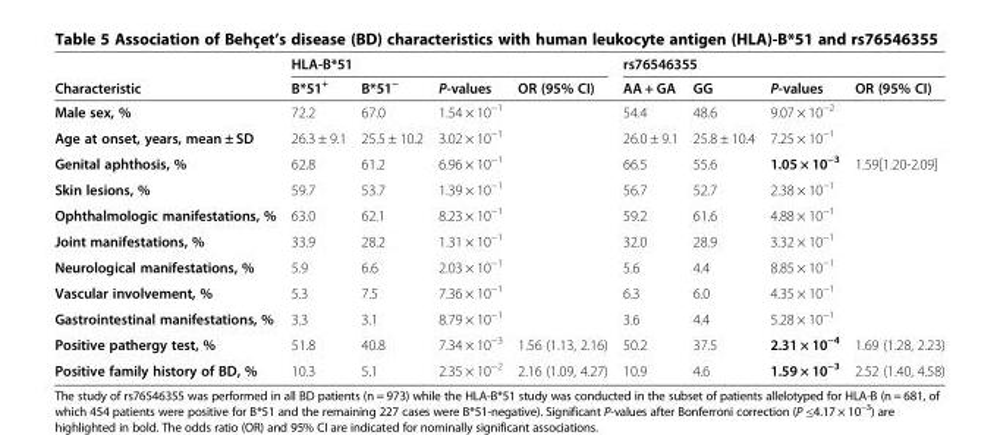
<table><thead><tr><td rowspan="2">Characteristic</td><td colspan="4">HLA-B*51</td><td colspan="4">rs76546355</td></tr><tr><td>B*51<sup>+</sup></td><td>B*51<sup>−</sup></td><td>P-values</td><td>OR (95% CI)</td><td>AA + GA</td><td>GG</td><td>P-values</td><td>OR (95% CI)</td></tr></thead><tbody><tr><td>Male sex, %</td><td>72.2</td><td>67.0</td><td>1.54 × 10<sup>−1</sup></td><td></td><td>54.4</td><td>48.6</td><td>9.07 × 10<sup>−2</sup></td><td></td></tr><tr><td>Age at onset, years, mean ± SD</td><td>26.3 ± 9.1</td><td>25.5 ± 10.2</td><td>3.02 × 10<sup>−1</sup></td><td></td><td>26.0 ± 9.1</td><td>25.8 ± 10.4</td><td>7.25 × 10<sup>−1</sup></td><td></td></tr><tr><td>Genital aphthosis, %</td><td>62.8</td><td>61.2</td><td>6.96 × 10<sup>−1</sup></td><td></td><td>66.5</td><td>55.6</td><td>1.05 × 10<sup>−3</sup></td><td>1.59[1.20-2.09]</td></tr><tr><td>Skin lesions, %</td><td>59.7</td><td>53.7</td><td>1.39 × 10<sup>−1</sup></td><td></td><td>56.7</td><td>52.7</td><td>2.38 × 10<sup>−1</sup></td><td></td></tr><tr><td>Ophthalmologic manifestations, %</td><td>63.0</td><td>62.1</td><td>8.23 × 10<sup>−1</sup></td><td></td><td>59.2</td><td>61.6</td><td>4.88 × 10<sup>−1</sup></td><td></td></tr><tr><td>Joint manifestations, %</td><td>33.9</td><td>28.2</td><td>1.31 × 10<sup>−1</sup></td><td></td><td>32.0</td><td>28.9</td><td>3.32 × 10<sup>−1</sup></td><td></td></tr><tr><td>Neurological manifestations, %</td><td>5.9</td><td>6.6</td><td>2.03 × 10<sup>−1</sup></td><td></td><td>5.6</td><td>4.4</td><td>8.85 × 10<sup>−1</sup></td><td></td></tr><tr><td>Vascular involvement, %</td><td>5.3</td><td>7.5</td><td>7.36 × 10<sup>−1</sup></td><td></td><td>6.3</td><td>6.0</td><td>4.35 × 10<sup>−1</sup></td><td></td></tr><tr><td>Gastrointestinal manifestations, %</td><td>3.3</td><td>3.1</td><td>8.79 × 10<sup>−1</sup></td><td></td><td>3.6</td><td>4.4</td><td>5.28 × 10<sup>−1</sup></td><td></td></tr><tr><td>Positive pathergy test, %</td><td>51.8</td><td>40.8</td><td>7.34 × 10<sup>−3</sup></td><td>1.56 (1.13, 2.16)</td><td>50.2</td><td>37.5</td><td>2.31 × 10<sup>−4</sup></td><td>1.69 (1.28, 2.23)</td></tr><tr><td>Positive family history of BD, %</td><td>10.3</td><td>5.1</td><td>2.35 × 10<sup>−2</sup></td><td>2.16 (1.09, 4.27)</td><td>10.9</td><td>4.6</td><td>1.59 × 10<sup>−3</sup></td><td>2.52 (1.40, 4.58)</td></tr></tbody></table>